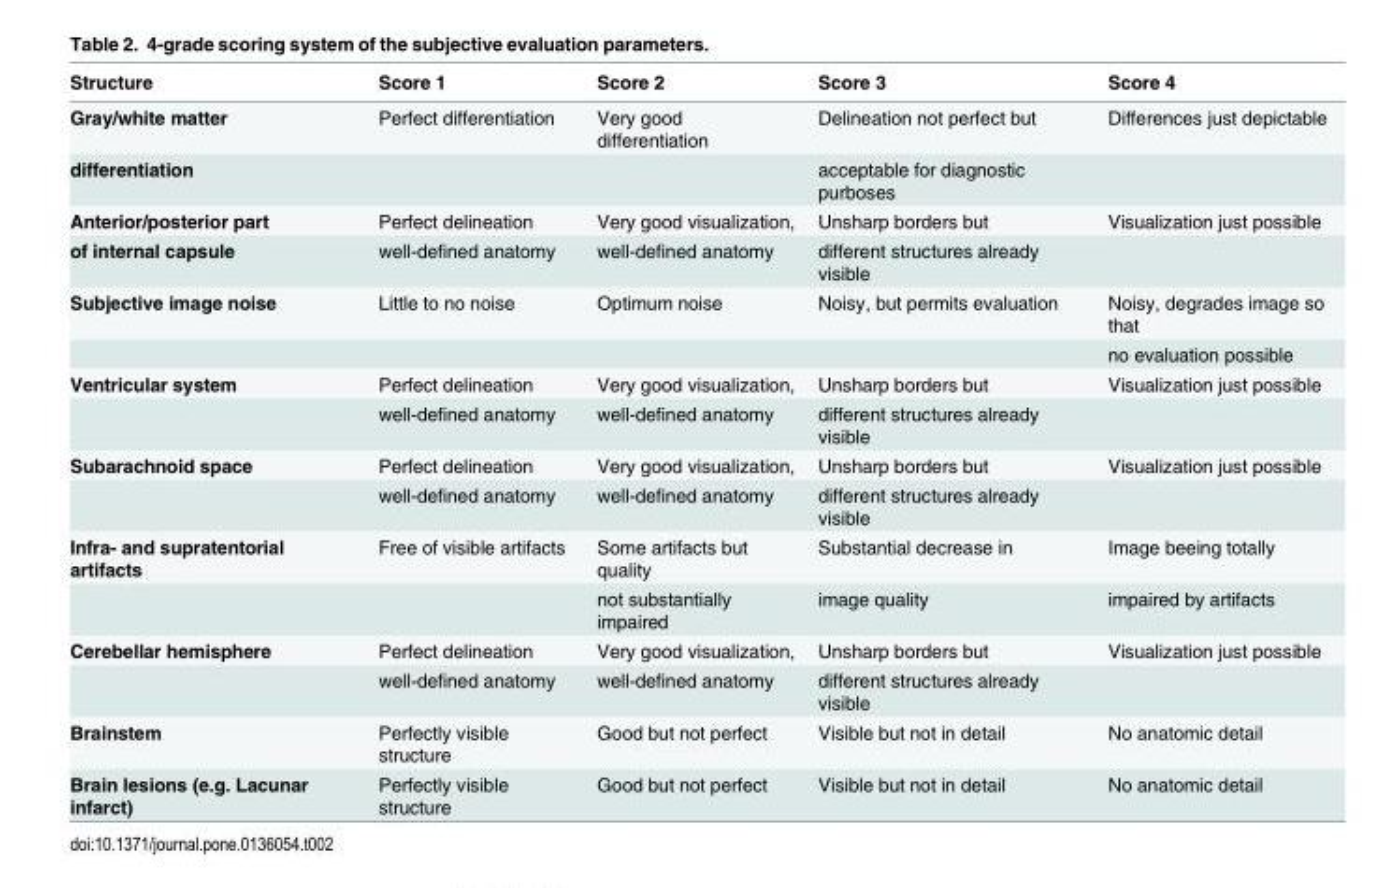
<table><thead><tr><td>Structure</td><td>Score 1</td><td>Score 2</td><td>Score 3</td><td>Score 4</td></tr></thead><tbody><tr><td>Gray/white matter</td><td>Perfect differentiation</td><td>Very good differentiation</td><td>Delineation not perfect but</td><td>Differences just depictable</td></tr><tr><td>differentiation</td><td></td><td></td><td>acceptable for diagnostic purboses</td><td></td></tr><tr><td>Anterior/posterior part</td><td>Perfect delineation</td><td>Very good visualization,</td><td>Unsharp borders but</td><td>Visualization just possible</td></tr><tr><td>of internal capsule</td><td>well-defined anatomy</td><td>well-defined anatomy</td><td>different structures already visible</td><td></td></tr><tr><td rowspan="2">Subjective image noise</td><td>Little to no noise</td><td>Optimum noise</td><td>Noisy, but permits evaluation</td><td>Noisy, degrades image so that</td></tr><tr><td></td><td></td><td></td><td>no evaluation possible</td></tr><tr><td rowspan="2">Ventricular system</td><td>Perfect delineation</td><td>Very good visualization,</td><td>Unsharp borders but</td><td>Visualization just possible</td></tr><tr><td>well-defined anatomy</td><td>well-defined anatomy</td><td>different structures already visible</td><td></td></tr><tr><td rowspan="2">Subarachnoid space</td><td>Perfect delineation</td><td>Very good visualization,</td><td>Unsharp borders but</td><td>Visualization just possible</td></tr><tr><td>well-defined anatomy</td><td>well-defined anatomy</td><td>different structures already visible</td><td></td></tr><tr><td rowspan="2">Infra- and supratentorial artifacts</td><td>Free of visible artifacts</td><td>Some artifacts but quality</td><td>Substantial decrease in</td><td>Image beeing totally</td></tr><tr><td></td><td>not substantially impaired</td><td>image quality</td><td>impaired by artifacts</td></tr><tr><td rowspan="2">Cerebellar hemisphere</td><td>Perfect delineation</td><td>Very good visualization,</td><td>Unsharp borders but</td><td>Visualization just possible</td></tr><tr><td>well-defined anatomy</td><td>well-defined anatomy</td><td>different structures already visible</td><td></td></tr><tr><td>Brainstem</td><td>Perfectly visible structure</td><td>Good but not perfect</td><td>Visible but not in detail</td><td>No anatomic detail</td></tr><tr><td>Brain lesions (e.g. Lacunar infarct)</td><td>Perfectly visible structure</td><td>Good but not perfect</td><td>Visible but not in detail</td><td>No anatomic detail</td></tr></tbody></table>